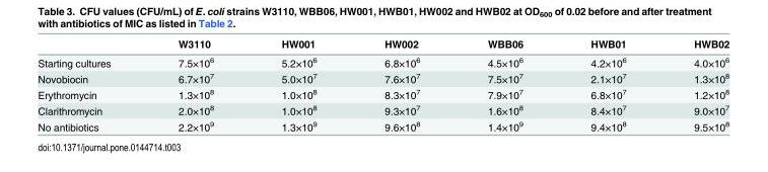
<table><thead><tr><td></td><td>W3110</td><td>HW001</td><td>HW002</td><td>WBB06</td><td>HWB01</td><td>HWB02</td></tr></thead><tbody><tr><td>Starting cultures</td><td>7.5×10<sup>6</sup></td><td>5.2×10<sup>6</sup></td><td>6.8×10<sup>6</sup></td><td>4.5×10<sup>6</sup></td><td>4.2×10<sup>6</sup></td><td>4.0×10<sup>6</sup></td></tr><tr><td>Novobiocin</td><td>6.7×10<sup>7</sup></td><td>5.0×10<sup>7</sup></td><td>7.6×10<sup>7</sup></td><td>7.5×10<sup>7</sup></td><td>2.1×10<sup>7</sup></td><td>1.3×10<sup>8</sup></td></tr><tr><td>Erythromycin</td><td>1.3×10<sup>8</sup></td><td>1.0×10<sup>8</sup></td><td>8.3×10<sup>7</sup></td><td>7.9×10<sup>7</sup></td><td>6.8×10<sup>7</sup></td><td>1.2×10<sup>8</sup></td></tr><tr><td>Clarithromycin</td><td>2.0×10<sup>8</sup></td><td>1.0×10<sup>8</sup></td><td>9.3×10<sup>7</sup></td><td>1.6×10<sup>8</sup></td><td>8.4×10<sup>7</sup></td><td>9.0×10<sup>7</sup></td></tr><tr><td>No antibiotics</td><td>2.2×10<sup>9</sup></td><td>1.3×10<sup>9</sup></td><td>9.6×10<sup>8</sup></td><td>1.4×10<sup>9</sup></td><td>9.4×10<sup>8</sup></td><td>9.5×10<sup>8</sup></td></tr></tbody></table>